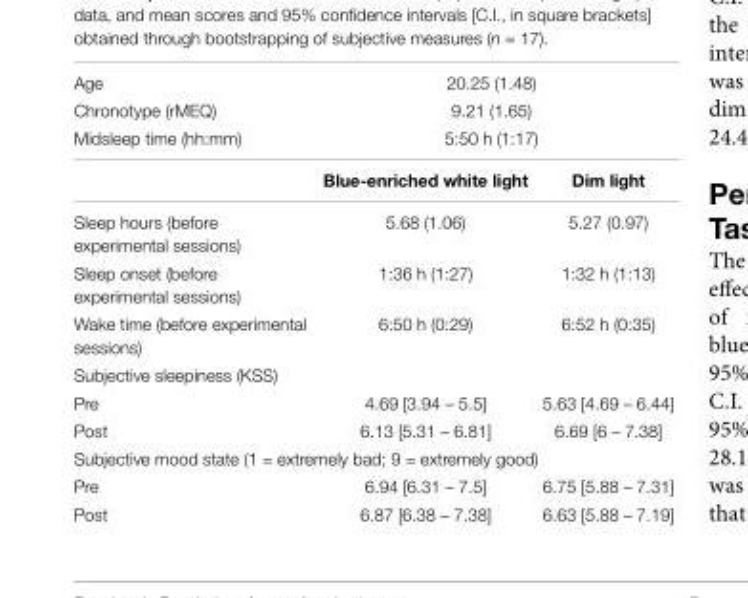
<table><tbody><tr><td>Age</td><td colspan="2">20.25 (1.48)</td></tr><tr><td>Chronotype (rMEQ)</td><td colspan="2">9.21 (1.65)</td></tr><tr><td rowspan="2">Midsleep time (hh:mm)</td><td colspan="2">5:50 h (1:17)</td></tr><tr><td>Blue-enriched white light</td><td>Dim light</td></tr><tr><td>Sleep hours (before experimental sessions)</td><td>5.68 (1.06)</td><td>5.27 (0.97)</td></tr><tr><td>Sleep onset (before experimental sessions)</td><td>1:36 h (1:27)</td><td>1:32 h (1:13)</td></tr><tr><td>Wake time (before experimental sessions)</td><td>6:50 h (0:29)</td><td>6:52 h (0:35)</td></tr><tr><td colspan="3">Subjective sleepiness (KSS)</td></tr><tr><td>Pre</td><td>4.69 [3.94 – 5.5]</td><td>5.63 [4.69 – 6.44]</td></tr><tr><td>Post</td><td>6.13 [5.31 – 6.81]</td><td>6.69 [6 – 7.38]</td></tr><tr><td colspan="3">Subjective mood state (1 = extremely bad; 9 = extremely good)</td></tr><tr><td>Pre</td><td>6.94 [6.31 – 7.5]</td><td>6.75 [5.88 – 7.31]</td></tr><tr><td>Post</td><td>6.87 [6.38 – 7.38]</td><td>6.63 [5.88 – 7.19]</td></tr></tbody></table>